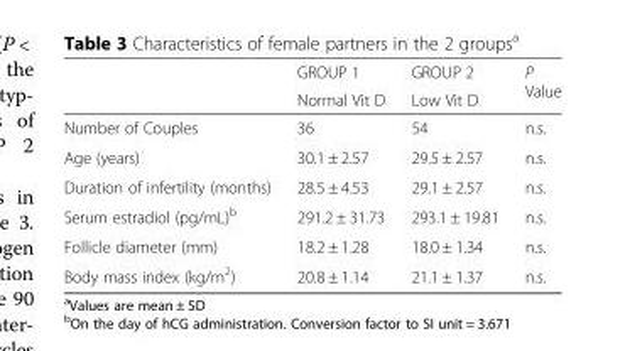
<table><thead><tr><td rowspan="2"></td><td rowspan="2">GROUP 1 Normal Vit D</td><td rowspan="2">GROUP 2 Low Vit D</td><td rowspan="2">P Value</td></tr><tr></tr></thead><tbody><tr><td>Number of Couples</td><td>36</td><td>54</td><td>n.s.</td></tr><tr><td>Age (years)</td><td>30.1 ± 2.57</td><td>29.5 ± 2.57</td><td>n.s.</td></tr><tr><td>Duration of infertility (months)</td><td>28.5 ± 4.53</td><td>29.1 ± 2.57</td><td>n.s.</td></tr><tr><td>Serum estradiol (pg/mL)<sup>b</sup></td><td>291.2 ± 31.73</td><td>293.1 ± 19.81</td><td>n.s.</td></tr><tr><td>Follicle diameter (mm)</td><td>18.2 ± 1.28</td><td>18.0 ± 1.34</td><td>n.s.</td></tr><tr><td>Body mass index (kg/m<sup>2</sup>)</td><td>20.8 ± 1.14</td><td>21.1 ± 1.37</td><td>n.s.</td></tr></tbody></table>